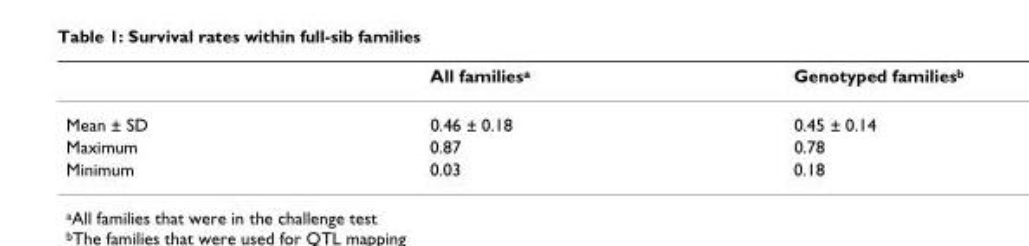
<table><thead><tr><td></td><td>All families<sup>a</sup></td><td>Genotyped families<sup>b</sup></td></tr></thead><tbody><tr><td>Mean ± SD</td><td>0.46 ± 0.18</td><td>0.45 ± 0.14</td></tr><tr><td>Maximum</td><td>0.87</td><td>0.78</td></tr><tr><td>Minimum</td><td>0.03</td><td>0.18</td></tr></tbody></table>